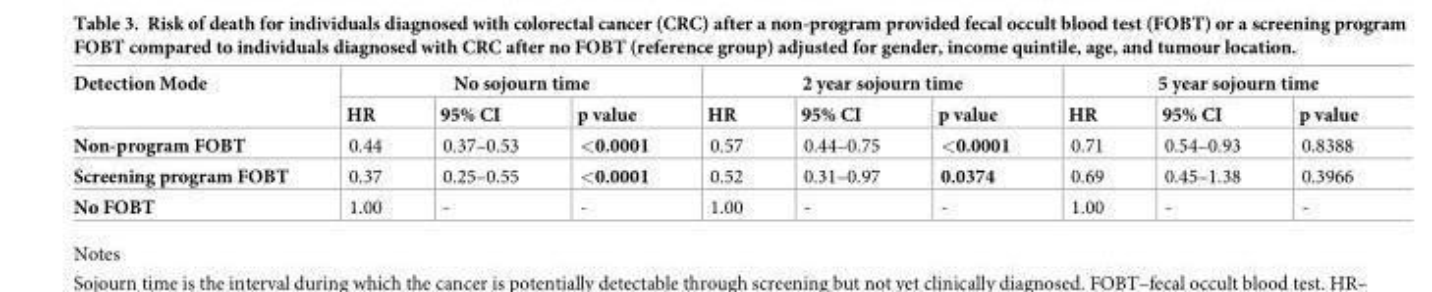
<table><thead><tr><td rowspan="2">Detection Mode</td><td colspan="3">No sojourn time</td><td colspan="3">2 year sojourn time</td><td colspan="3">5 year sojourn time</td></tr><tr><td>HR</td><td>95% CI</td><td>p value</td><td>HR</td><td>95% CI</td><td>p value</td><td>HR</td><td>95% CI</td><td>p value</td></tr></thead><tbody><tr><td>Non-program FOBT</td><td>0.44</td><td>0.37–0.53</td><td>&lt;0.0001</td><td>0.57</td><td>0.44–0.75</td><td>&lt;0.0001</td><td>0.71</td><td>0.54–0.93</td><td>0.8388</td></tr><tr><td>Screening program FOBT</td><td>0.37</td><td>0.25–0.55</td><td>&lt;0.0001</td><td>0.52</td><td>0.31–0.97</td><td>0.0374</td><td>0.69</td><td>0.45–1.38</td><td>0.3966</td></tr><tr><td>No FOBT</td><td>1.00</td><td>-</td><td>-</td><td>1.00</td><td>-</td><td>-</td><td>1.00</td><td>-</td><td>-</td></tr></tbody></table>